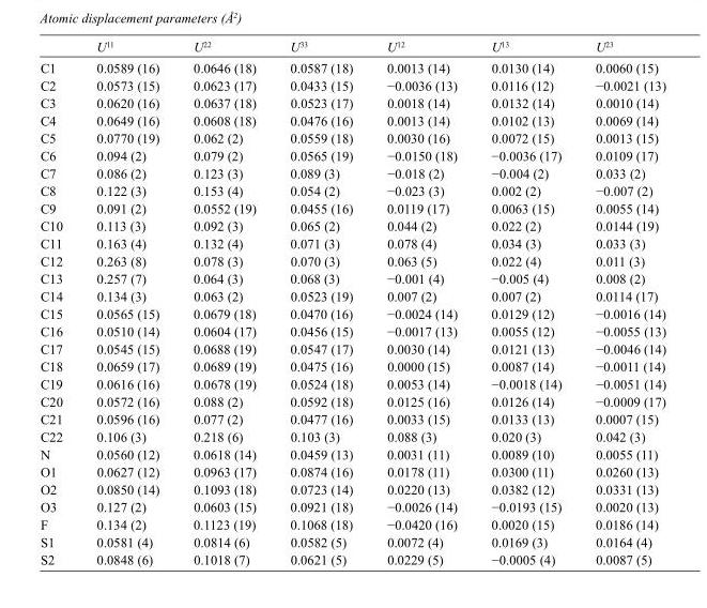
<table><thead><tr><td></td><td>U<sup>11</sup></td><td>U<sup>22</sup></td><td>U<sup>33</sup></td><td>U<sup>12</sup></td><td>U<sup>13</sup></td><td>U<sup>23</sup></td></tr></thead><tbody><tr><td>C1</td><td>0.0589 (16)</td><td>0.0646 (18)</td><td>0.0587 (18)</td><td>0.0013 (14)</td><td>0.0130 (14)</td><td>0.0060 (15)</td></tr><tr><td>C2</td><td>0.0573 (15)</td><td>0.0623 (17)</td><td>0.0433 (15)</td><td>−0.0036 (13)</td><td>0.0116 (12)</td><td>−0.0021 (13)</td></tr><tr><td>C3</td><td>0.0620 (16)</td><td>0.0637 (18)</td><td>0.0523 (17)</td><td>0.0018 (14)</td><td>0.0132 (14)</td><td>0.0010 (14)</td></tr><tr><td>C4</td><td>0.0649 (16)</td><td>0.0608 (18)</td><td>0.0476 (16)</td><td>0.0013 (14)</td><td>0.0102 (13)</td><td>0.0069 (14)</td></tr><tr><td>C5</td><td>0.0770 (19)</td><td>0.062 (2)</td><td>0.0559 (18)</td><td>0.0030 (16)</td><td>0.0072 (15)</td><td>0.0013 (15)</td></tr><tr><td>C6</td><td>0.094 (2)</td><td>0.079 (2)</td><td>0.0565 (19)</td><td>−0.0150 (18)</td><td>−0.0036 (17)</td><td>0.0109 (17)</td></tr><tr><td>C7</td><td>0.086 (2)</td><td>0.123 (3)</td><td>0.089 (3)</td><td>−0.018 (2)</td><td>−0.004 (2)</td><td>0.033 (2)</td></tr><tr><td>C8</td><td>0.122 (3)</td><td>0.153 (4)</td><td>0.054 (2)</td><td>−0.023 (3)</td><td>0.002 (2)</td><td>−0.007 (2)</td></tr><tr><td>C9</td><td>0.091 (2)</td><td>0.0552 (19)</td><td>0.0455 (16)</td><td>0.0119 (17)</td><td>0.0063 (15)</td><td>0.0055 (14)</td></tr><tr><td>C10</td><td>0.113 (3)</td><td>0.092 (3)</td><td>0.065 (2)</td><td>0.044 (2)</td><td>0.022 (2)</td><td>0.0144 (19)</td></tr><tr><td>C11</td><td>0.163 (4)</td><td>0.132 (4)</td><td>0.071 (3)</td><td>0.078 (4)</td><td>0.034 (3)</td><td>0.033 (3)</td></tr><tr><td>C12</td><td>0.263 (8)</td><td>0.078 (3)</td><td>0.070 (3)</td><td>0.063 (5)</td><td>0.022 (4)</td><td>0.011 (3)</td></tr><tr><td>C13</td><td>0.257 (7)</td><td>0.064 (3)</td><td>0.068 (3)</td><td>−0.001 (4)</td><td>−0.005 (4)</td><td>0.008 (2)</td></tr><tr><td>C14</td><td>0.134 (3)</td><td>0.063 (2)</td><td>0.0523 (19)</td><td>0.007 (2)</td><td>0.007 (2)</td><td>0.0114 (17)</td></tr><tr><td>C15</td><td>0.0565 (15)</td><td>0.0679 (18)</td><td>0.0470 (16)</td><td>−0.0024 (14)</td><td>0.0129 (12)</td><td>−0.0016 (14)</td></tr><tr><td>C16</td><td>0.0510 (14)</td><td>0.0604 (17)</td><td>0.0456 (15)</td><td>−0.0017 (13)</td><td>0.0055 (12)</td><td>−0.0055 (13)</td></tr><tr><td>C17</td><td>0.0545 (15)</td><td>0.0688 (19)</td><td>0.0547 (17)</td><td>0.0030 (14)</td><td>0.0121 (13)</td><td>−0.0046 (14)</td></tr><tr><td>C18</td><td>0.0659 (17)</td><td>0.0689 (19)</td><td>0.0475 (16)</td><td>0.0000 (15)</td><td>0.0087 (14)</td><td>−0.0011 (14)</td></tr><tr><td>C19</td><td>0.0616 (16)</td><td>0.0678 (19)</td><td>0.0524 (18)</td><td>0.0053 (14)</td><td>−0.0018 (14)</td><td>−0.0051 (14)</td></tr><tr><td>C20</td><td>0.0572 (16)</td><td>0.088 (2)</td><td>0.0592 (18)</td><td>0.0125 (16)</td><td>0.0126 (14)</td><td>−0.0009 (17)</td></tr><tr><td>C21</td><td>0.0596 (16)</td><td>0.077 (2)</td><td>0.0477 (16)</td><td>0.0033 (15)</td><td>0.0133 (13)</td><td>0.0007 (15)</td></tr><tr><td>C22</td><td>0.106 (3)</td><td>0.218 (6)</td><td>0.103 (3)</td><td>0.088 (3)</td><td>0.020 (3)</td><td>0.042 (3)</td></tr><tr><td>N</td><td>0.0560 (12)</td><td>0.0618 (14)</td><td>0.0459 (13)</td><td>0.0031 (11)</td><td>0.0089 (10)</td><td>0.0055 (11)</td></tr><tr><td>O1</td><td>0.0627 (12)</td><td>0.0963 (17)</td><td>0.0874 (16)</td><td>0.0178 (11)</td><td>0.0300 (11)</td><td>0.0260 (13)</td></tr><tr><td>O2</td><td>0.0850 (14)</td><td>0.1093 (18)</td><td>0.0723 (14)</td><td>0.0220 (13)</td><td>0.0382 (12)</td><td>0.0331 (13)</td></tr><tr><td>O3</td><td>0.127 (2)</td><td>0.0603 (15)</td><td>0.0921 (18)</td><td>−0.0026 (14)</td><td>−0.0193 (15)</td><td>0.0020 (13)</td></tr><tr><td>F</td><td>0.134 (2)</td><td>0.1123 (19)</td><td>0.1068 (18)</td><td>−0.0420 (16)</td><td>0.0020 (15)</td><td>0.0186 (14)</td></tr><tr><td>S1</td><td>0.0581 (4)</td><td>0.0814 (6)</td><td>0.0582 (5)</td><td>0.0072 (4)</td><td>0.0169 (3)</td><td>0.0164 (4)</td></tr><tr><td>S2</td><td>0.0848 (6)</td><td>0.1018 (7)</td><td>0.0621 (5)</td><td>0.0229 (5)</td><td>−0.0005 (4)</td><td>0.0087 (5)</td></tr></tbody></table>